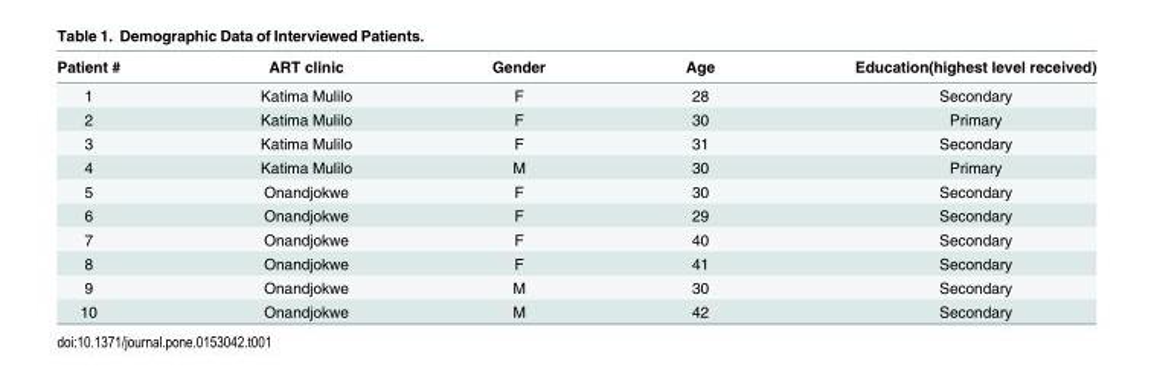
<table><thead><tr><td>Patient #</td><td>ART clinic</td><td>Gender</td><td>Age</td><td>Education(highest level received)</td></tr></thead><tbody><tr><td>1</td><td>Katima Mulilo</td><td>F</td><td>28</td><td>Secondary</td></tr><tr><td>2</td><td>Katima Mulilo</td><td>F</td><td>30</td><td>Primary</td></tr><tr><td>3</td><td>Katima Mulilo</td><td>F</td><td>31</td><td>Secondary</td></tr><tr><td>4</td><td>Katima Mulilo</td><td>M</td><td>30</td><td>Primary</td></tr><tr><td>5</td><td>Onandjokwe</td><td>F</td><td>30</td><td>Secondary</td></tr><tr><td>6</td><td>Onandjokwe</td><td>F</td><td>29</td><td>Secondary</td></tr><tr><td>7</td><td>Onandjokwe</td><td>F</td><td>40</td><td>Secondary</td></tr><tr><td>8</td><td>Onandjokwe</td><td>F</td><td>41</td><td>Secondary</td></tr><tr><td>9</td><td>Onandjokwe</td><td>M</td><td>30</td><td>Secondary</td></tr><tr><td>10</td><td>Onandjokwe</td><td>M</td><td>42</td><td>Secondary</td></tr></tbody></table>